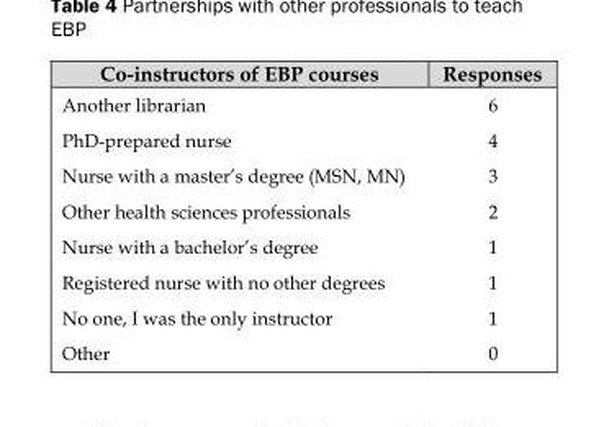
<table><thead><tr><td>Co-instructors of EBP courses</td><td>Responses</td></tr></thead><tbody><tr><td>Another librarian</td><td>6</td></tr><tr><td>PhD-prepared nurse</td><td>4</td></tr><tr><td>Nurse with a master’s degree (MSN, MN)</td><td>3</td></tr><tr><td>Other health sciences professionals</td><td>2</td></tr><tr><td>Nurse with a bachelor’s degree</td><td>1</td></tr><tr><td>Registered nurse with no other degrees</td><td>1</td></tr><tr><td>No one, I was the only instructor</td><td>1</td></tr><tr><td>Other</td><td>0</td></tr></tbody></table>